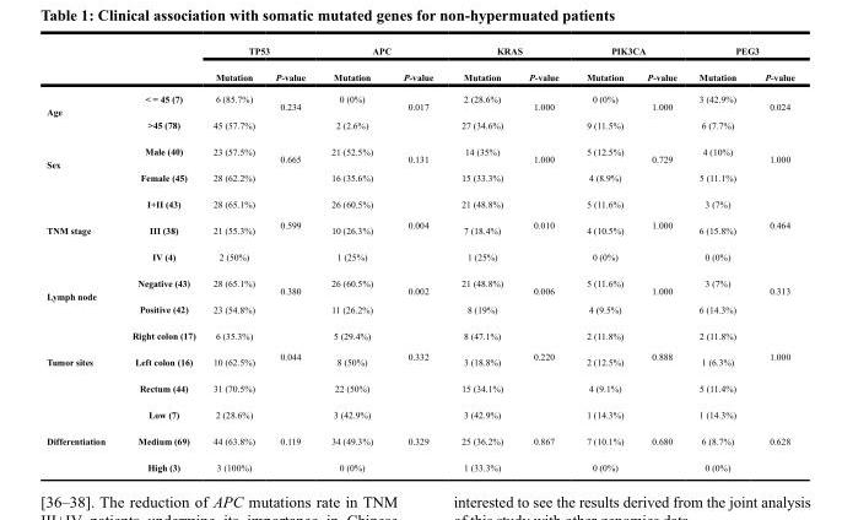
<table><thead><tr><td rowspan="2"></td><td rowspan="2"></td><td colspan="2">TP53</td><td colspan="2">APC</td><td colspan="2">KRAS</td><td colspan="2">PIK3CA</td><td colspan="2">PEG3</td></tr><tr><td>Mutation</td><td>P-value</td><td>Mutation</td><td>P-value</td><td>Mutation</td><td>P-value</td><td>Mutation</td><td>P-value</td><td>Mutation</td><td>P-value</td></tr></thead><tbody><tr><td rowspan="2">Age</td><td>&lt; = 45 (7)</td><td>6 (85.7%)</td><td rowspan="2">0.234</td><td>0 (0%)</td><td rowspan="2">0.017</td><td>2 (28.6%)</td><td rowspan="2">1.000</td><td>0 (0%)</td><td rowspan="2">1.000</td><td>3 (42.9%)</td><td rowspan="2">0.024</td></tr><tr><td>&gt;45 (78)</td><td>45 (57.7%)</td><td>2 (2.6%)</td><td>27 (34.6%)</td><td>9 (11.5%)</td><td>6 (7.7%)</td></tr><tr><td rowspan="2">Sex</td><td>Male (40)</td><td>23 (57.5%)</td><td rowspan="2">0.665</td><td>21 (52.5%)</td><td rowspan="2">0.131</td><td>14 (35%)</td><td rowspan="2">1.000</td><td>5 (12.5%)</td><td rowspan="2">0.729</td><td>4 (10%)</td><td rowspan="2">1.000</td></tr><tr><td>Female (45)</td><td>28 (62.2%)</td><td>16 (35.6%)</td><td>15 (33.3%)</td><td>4 (8.9%)</td><td>5 (11.1%)</td></tr><tr><td rowspan="3">TNM stage</td><td>I+II (43)</td><td>28 (65.1%)</td><td rowspan="3">0.599</td><td>26 (60.5%)</td><td rowspan="3">0.004</td><td>21 (48.8%)</td><td rowspan="3">0.010</td><td>5 (11.6%)</td><td rowspan="3">1.000</td><td>3 (7%)</td><td rowspan="3">0.464</td></tr><tr><td>III (38)</td><td>21 (55.3%)</td><td>10 (26.3%)</td><td>7 (18.4%)</td><td>4 (10.5%)</td><td>6 (15.8%)</td></tr><tr><td>IV (4)</td><td>2 (50%)</td><td>1 (25%)</td><td>1 (25%)</td><td>0 (0%)</td><td>0 (0%)</td></tr><tr><td rowspan="2">Lymph node</td><td>Negative (43)</td><td>28 (65.1%)</td><td rowspan="2">0.380</td><td>26 (60.5%)</td><td rowspan="2">0.002</td><td>21 (48.8%)</td><td rowspan="2">0.006</td><td>5 (11.6%)</td><td rowspan="2">1.000</td><td>3 (7%)</td><td rowspan="2">0.313</td></tr><tr><td>Positive (42)</td><td>23 (54.8%)</td><td>11 (26.2%)</td><td>8 (19%)</td><td>4 (9.5%)</td><td>6 (14.3%)</td></tr><tr><td rowspan="3">Tumor sites</td><td>Right colon (17)</td><td>6 (35.3%)</td><td rowspan="3">0.044</td><td>5 (29.4%)</td><td rowspan="3">0.332</td><td>8 (47.1%)</td><td rowspan="3">0.220</td><td>2 (11.8%)</td><td rowspan="3">0.888</td><td>2 (11.8%)</td><td rowspan="3">1.000</td></tr><tr><td>Left colon (16)</td><td>10 (62.5%)</td><td>8 (50%)</td><td>3 (18.8%)</td><td>2 (12.5%)</td><td>1 (6.3%)</td></tr><tr><td>Rectum (44)</td><td>31 (70.5%)</td><td>22 (50%)</td><td>15 (34.1%)</td><td>4 (9.1%)</td><td>5 (11.4%)</td></tr><tr><td rowspan="3">Differentiation</td><td>Low (7)</td><td>2 (28.6%)</td><td rowspan="3">0.119</td><td>3 (42.9%)</td><td rowspan="3">0.329</td><td>3 (42.9%)</td><td rowspan="3">0.867</td><td>1 (14.3%)</td><td rowspan="3">0.680</td><td>1 (14.3%)</td><td rowspan="3">0.628</td></tr><tr><td>Medium (69)</td><td>44 (63.8%)</td><td>34 (49.3%)</td><td>25 (36.2%)</td><td>7 (10.1%)</td><td>6 (8.7%)</td></tr><tr><td>High (3)</td><td>3 (100%)</td><td>0 (0%)</td><td>1 (33.3%)</td><td>0 (0%)</td><td>0 (0%)</td></tr></tbody></table>